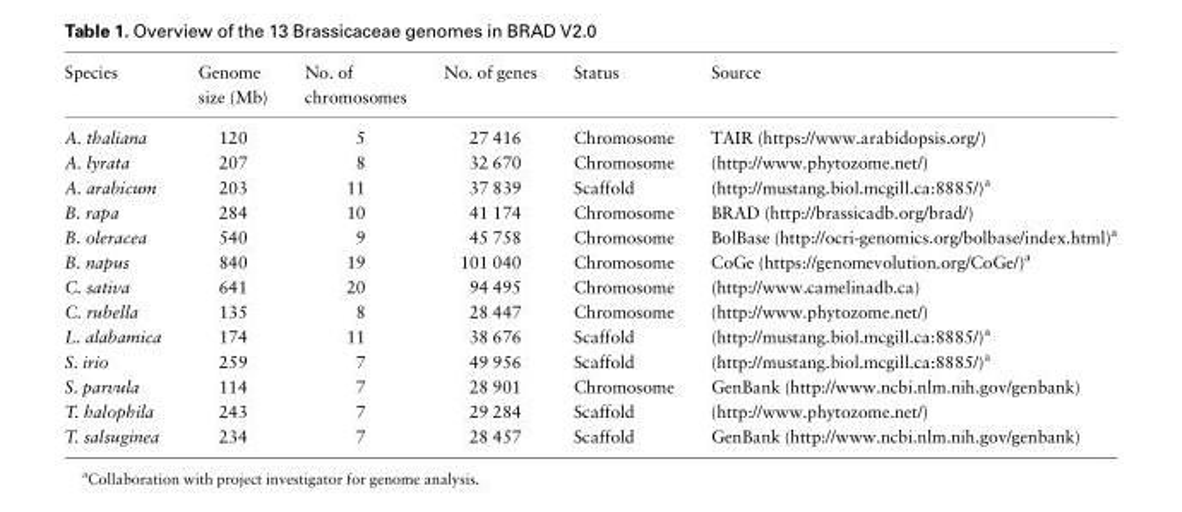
<table><thead><tr><td>Species</td><td>Genome size (Mb)</td><td>No. of chromosomes</td><td>No. of genes</td><td>Status</td><td>Source</td></tr></thead><tbody><tr><td>A. thaliana</td><td>120</td><td>5</td><td>27 416</td><td>Chromosome</td><td>TAIR (https://www.arabidopsis.org/)</td></tr><tr><td>A. lyrata</td><td>207</td><td>8</td><td>32 670</td><td>Chromosome</td><td>(http://www.phytozome.net/)</td></tr><tr><td>A. arabicum</td><td>203</td><td>11</td><td>37 839</td><td>Scaffold</td><td>(http://mustang.biol.mcgill.ca:8885/)<sup>a</sup></td></tr><tr><td>B. rapa</td><td>284</td><td>10</td><td>41 174</td><td>Chromosome</td><td>BRAD (http://brassicadb.org/brad/)</td></tr><tr><td>B. oleracea</td><td>540</td><td>9</td><td>45 758</td><td>Chromosome</td><td>BolBase (http://ocri-genomics.org/bolbase/index.html)<sup>a</sup></td></tr><tr><td>B. napus</td><td>840</td><td>19</td><td>101 040</td><td>Chromosome</td><td>CoGe (https://genomevolution.org/CoGe/)<sup>a</sup></td></tr><tr><td>C. sativa</td><td>641</td><td>20</td><td>94 495</td><td>Chromosome</td><td>(http://www.camelinadb.ca)</td></tr><tr><td>C. rubella</td><td>135</td><td>8</td><td>28 447</td><td>Chromosome</td><td>(http://www.phytozome.net/)</td></tr><tr><td>L. alabamica</td><td>174</td><td>11</td><td>38 676</td><td>Scaffold</td><td>(http://mustang.biol.mcgill.ca:8885/)<sup>a</sup></td></tr><tr><td>S. irio</td><td>259</td><td>7</td><td>49 956</td><td>Scaffold</td><td>(http://mustang.biol.mcgill.ca:8885/)<sup>a</sup></td></tr><tr><td>S. parvula</td><td>114</td><td>7</td><td>28 901</td><td>Chromosome</td><td>GenBank (http://www.ncbi.nlm.nih.gov/genbank)</td></tr><tr><td>T. halophila</td><td>243</td><td>7</td><td>29 284</td><td>Scaffold</td><td>(http://www.phytozome.net/)</td></tr><tr><td>T. salsuginea</td><td>234</td><td>7</td><td>28 457</td><td>Scaffold</td><td>GenBank (http://www.ncbi.nlm.nih.gov/genbank)</td></tr></tbody></table>